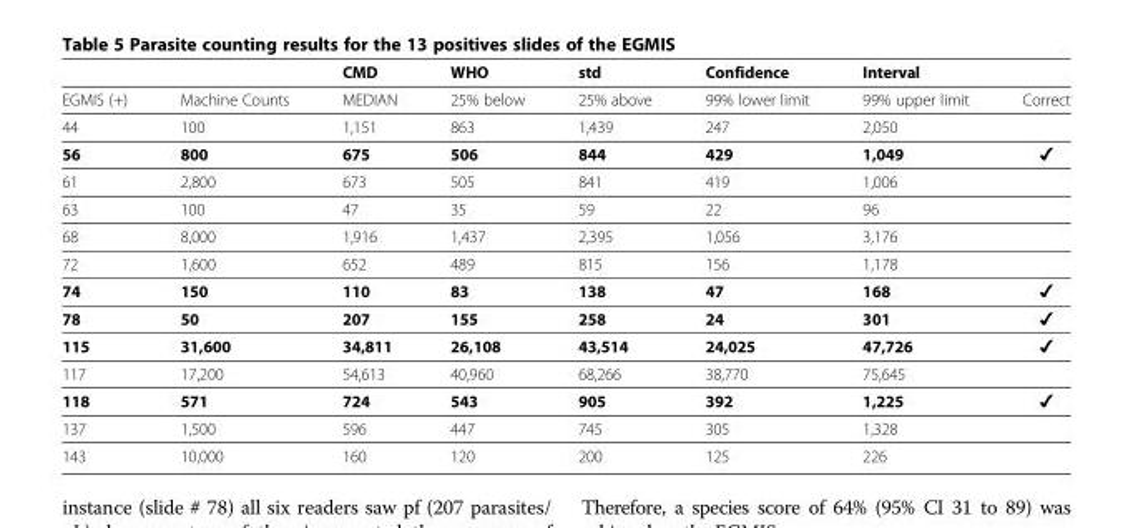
<table><thead><tr><td></td><td></td><td>CMD</td><td>WHO</td><td>std</td><td>Confidence</td><td>Interval</td><td></td></tr></thead><tbody><tr><td>EGMIS (+)</td><td>Machine Counts</td><td>MEDIAN</td><td>25% below</td><td>25% above</td><td>99% lower limit</td><td>99% upper limit</td><td>Correct</td></tr><tr><td>44</td><td>100</td><td>1,151</td><td>863</td><td>1,439</td><td>247</td><td>2,050</td><td></td></tr><tr><td>56</td><td>800</td><td>675</td><td>506</td><td>844</td><td>429</td><td>1,049</td><td>✔</td></tr><tr><td>61</td><td>2,800</td><td>673</td><td>505</td><td>841</td><td>419</td><td>1,006</td><td></td></tr><tr><td>63</td><td>100</td><td>47</td><td>35</td><td>59</td><td>22</td><td>96</td><td></td></tr><tr><td>68</td><td>8,000</td><td>1,916</td><td>1,437</td><td>2,395</td><td>1,056</td><td>3,176</td><td></td></tr><tr><td>72</td><td>1,600</td><td>652</td><td>489</td><td>815</td><td>156</td><td>1,178</td><td></td></tr><tr><td>74</td><td>150</td><td>110</td><td>83</td><td>138</td><td>47</td><td>168</td><td>✔</td></tr><tr><td>78</td><td>50</td><td>207</td><td>155</td><td>258</td><td>24</td><td>301</td><td>✔</td></tr><tr><td>115</td><td>31,600</td><td>34,811</td><td>26,108</td><td>43,514</td><td>24,025</td><td>47,726</td><td>✔</td></tr><tr><td>117</td><td>17,200</td><td>54,613</td><td>40,960</td><td>68,266</td><td>38,770</td><td>75,645</td><td></td></tr><tr><td>118</td><td>571</td><td>724</td><td>543</td><td>905</td><td>392</td><td>1,225</td><td>✔</td></tr><tr><td>137</td><td>1,500</td><td>596</td><td>447</td><td>745</td><td>305</td><td>1,328</td><td></td></tr><tr><td>143</td><td>10,000</td><td>160</td><td>120</td><td>200</td><td>125</td><td>226</td><td></td></tr></tbody></table>